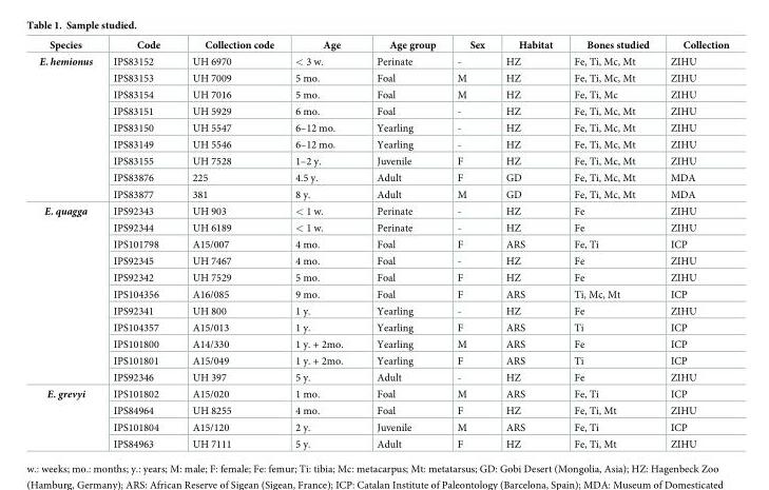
<table><thead><tr><td>Species</td><td>Code</td><td>Collection code</td><td>Age</td><td>Age group</td><td>Sex</td><td>Habitat</td><td>Bones studied</td><td>Collection</td></tr></thead><tbody><tr><td rowspan="9">E. hemionus</td><td>IPS83152</td><td>UH 6970</td><td>&lt; 3 w.</td><td>Perinate</td><td>-</td><td>HZ</td><td>Fe, Ti, Mc, Mt</td><td>ZIHU</td></tr><tr><td>IPS83153</td><td>UH 7009</td><td>5 mo.</td><td>Foal</td><td>M</td><td>HZ</td><td>Fe, Ti, Mc, Mt</td><td>ZIHU</td></tr><tr><td>IPS83154</td><td>UH 7016</td><td>5 mo.</td><td>Foal</td><td>M</td><td>HZ</td><td>Fe, Ti, Mc</td><td>ZIHU</td></tr><tr><td>IPS83151</td><td>UH 5929</td><td>6 mo.</td><td>Foal</td><td>-</td><td>HZ</td><td>Fe, Ti, Mc, Mt</td><td>ZIHU</td></tr><tr><td>IPS83150</td><td>UH 5547</td><td>6–12 mo.</td><td>Yearling</td><td>-</td><td>HZ</td><td>Fe, Ti, Mc, Mt</td><td>ZIHU</td></tr><tr><td>IPS83149</td><td>UH 5546</td><td>6–12 mo.</td><td>Yearling</td><td>-</td><td>HZ</td><td>Fe, Ti, Mc, Mt</td><td>ZIHU</td></tr><tr><td>IPS83155</td><td>UH 7528</td><td>1–2 y.</td><td>Juvenile</td><td>F</td><td>HZ</td><td>Fe, Ti, Mc, Mt</td><td>ZIHU</td></tr><tr><td>IPS83876</td><td>225</td><td>4.5 y.</td><td>Adult</td><td>F</td><td>GD</td><td>Fe, Ti, Mc, Mt</td><td>MDA</td></tr><tr><td>IPS83877</td><td>381</td><td>8 y.</td><td>Adult</td><td>M</td><td>GD</td><td>Fe, Ti, Mc, Mt</td><td>MDA</td></tr><tr><td rowspan="11">E. quagga</td><td>IPS92343</td><td>UH 903</td><td>&lt; 1 w.</td><td>Perinate</td><td>-</td><td>HZ</td><td>Fe</td><td>ZIHU</td></tr><tr><td>IPS92344</td><td>UH 6189</td><td>&lt; 1 w.</td><td>Perinate</td><td>-</td><td>HZ</td><td>Fe</td><td>ZIHU</td></tr><tr><td>IPS101798</td><td>A15/007</td><td>4 mo.</td><td>Foal</td><td>F</td><td>ARS</td><td>Fe, Ti</td><td>ICP</td></tr><tr><td>IPS92345</td><td>UH 7467</td><td>4 mo.</td><td>Foal</td><td>-</td><td>HZ</td><td>Fe</td><td>ZIHU</td></tr><tr><td>IPS92342</td><td>UH 7529</td><td>5 mo.</td><td>Foal</td><td>F</td><td>HZ</td><td>Fe</td><td>ZIHU</td></tr><tr><td>IPS104356</td><td>A16/085</td><td>9 mo.</td><td>Foal</td><td>F</td><td>ARS</td><td>Ti, Mc, Mt</td><td>ICP</td></tr><tr><td>IPS92341</td><td>UH 800</td><td>1 y.</td><td>Yearling</td><td>-</td><td>HZ</td><td>Fe</td><td>ZIHU</td></tr><tr><td>IPS104357</td><td>A15/013</td><td>1 y.</td><td>Yearling</td><td>F</td><td>ARS</td><td>Ti</td><td>ICP</td></tr><tr><td>IPS101800</td><td>A14/330</td><td>1 y. + 2mo.</td><td>Yearling</td><td>M</td><td>ARS</td><td>Fe</td><td>ICP</td></tr><tr><td>IPS101801</td><td>A15/049</td><td>1 y. + 2mo.</td><td>Yearling</td><td>F</td><td>ARS</td><td>Ti</td><td>ICP</td></tr><tr><td>IPS92346</td><td>UH 397</td><td>5 y.</td><td>Adult</td><td>-</td><td>HZ</td><td>Fe</td><td>ZIHU</td></tr><tr><td rowspan="4">E. grevyi</td><td>IPS101802</td><td>A15/020</td><td>1 mo.</td><td>Foal</td><td>M</td><td>ARS</td><td>Fe, Ti</td><td>ICP</td></tr><tr><td>IPS84964</td><td>UH 8255</td><td>4 mo.</td><td>Foal</td><td>F</td><td>HZ</td><td>Fe, Ti, Mt</td><td>ZIHU</td></tr><tr><td>IPS101804</td><td>A15/120</td><td>2 y.</td><td>Juvenile</td><td>M</td><td>ARS</td><td>Fe, Ti</td><td>ICP</td></tr><tr><td>IPS84963</td><td>UH 7111</td><td>5 y.</td><td>Adult</td><td>F</td><td>HZ</td><td>Fe, Ti, Mt</td><td>ZIHU</td></tr></tbody></table>